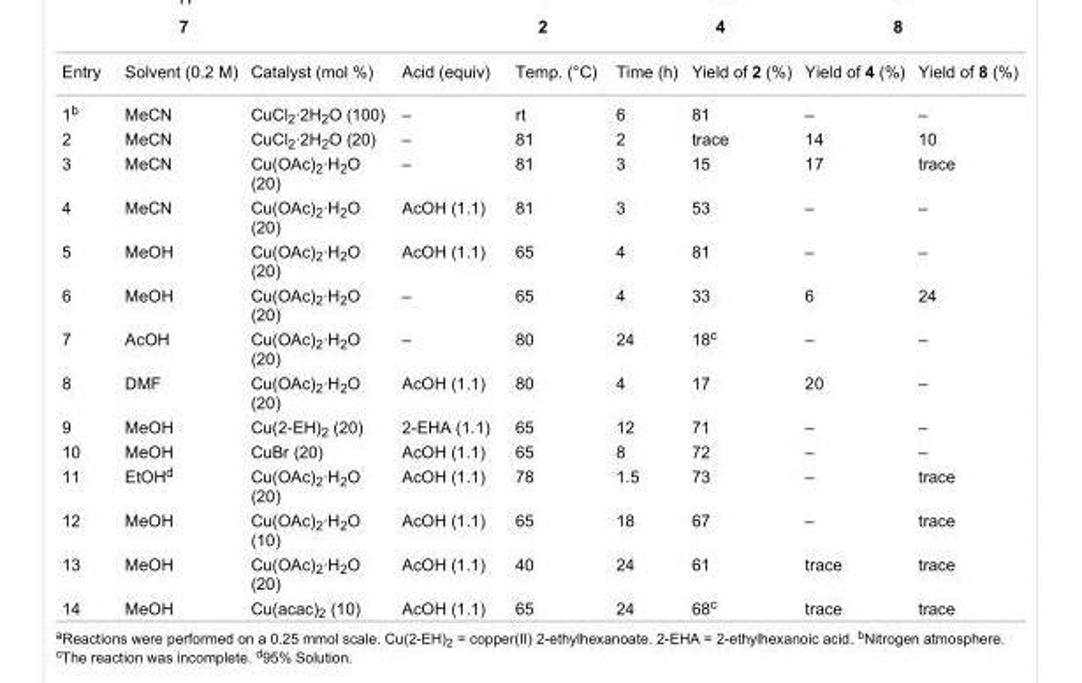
<table><tbody><tr><td>Entry</td><td>Solvent (0.2 M)</td><td>Catalyst (mol %)</td><td>Acid (equiv)</td><td>Temp. (°C)</td><td>Time (h)</td><td>Yield of 2 (%)</td><td>Yield of 4 (%)</td><td>Yield of 8 (%)</td></tr><tr><td>1<sup>b</sup></td><td>MeCN</td><td>CuCl<sub>2</sub>∙2H<sub>2</sub>O (100)</td><td>–</td><td>rt</td><td>6</td><td>81</td><td>–</td><td>–</td></tr><tr><td>2</td><td>MeCN</td><td>CuCl<sub>2</sub>∙2H<sub>2</sub>O (20)</td><td>–</td><td>81</td><td>2</td><td>trace</td><td>14</td><td>10</td></tr><tr><td>3</td><td>MeCN</td><td>Cu(OAc)<sub>2</sub>∙H<sub>2</sub>O (20)</td><td>–</td><td>81</td><td>3</td><td>15</td><td>17</td><td>trace</td></tr><tr><td>4</td><td>MeCN</td><td>Cu(OAc)<sub>2</sub>∙H<sub>2</sub>O (20)</td><td>AcOH (1.1)</td><td>81</td><td>3</td><td>53</td><td>–</td><td>–</td></tr><tr><td>5</td><td>MeOH</td><td>Cu(OAc)<sub>2</sub>∙H<sub>2</sub>O (20)</td><td>AcOH (1.1)</td><td>65</td><td>4</td><td>81</td><td>–</td><td>–</td></tr><tr><td>6</td><td>MeOH</td><td>Cu(OAc)<sub>2</sub>∙H<sub>2</sub>O (20)</td><td>–</td><td>65</td><td>4</td><td>33</td><td>6</td><td>24</td></tr><tr><td>7</td><td>AcOH</td><td>Cu(OAc)<sub>2</sub>∙H<sub>2</sub>O (20)</td><td>–</td><td>80</td><td>24</td><td>18<sup>c</sup></td><td>–</td><td>–</td></tr><tr><td>8</td><td>DMF</td><td>Cu(OAc)<sub>2</sub>∙H<sub>2</sub>O (20)</td><td>AcOH (1.1)</td><td>80</td><td>4</td><td>17</td><td>20</td><td>–</td></tr><tr><td>9</td><td>MeOH</td><td>Cu(2-EH)<sub>2</sub> (20)</td><td>2-EHA (1.1)</td><td>65</td><td>12</td><td>71</td><td>–</td><td>–</td></tr><tr><td>10</td><td>MeOH</td><td>CuBr (20)</td><td>AcOH (1.1)</td><td>65</td><td>8</td><td>72</td><td>–</td><td>–</td></tr><tr><td>11</td><td>EtOH<sup>d</sup></td><td>Cu(OAc)<sub>2</sub>∙H<sub>2</sub>O (20)</td><td>AcOH (1.1)</td><td>78</td><td>1.5</td><td>73</td><td>–</td><td>trace</td></tr><tr><td>12</td><td>MeOH</td><td>Cu(OAc)<sub>2</sub>∙H<sub>2</sub>O (10)</td><td>AcOH (1.1)</td><td>65</td><td>18</td><td>67</td><td>–</td><td>trace</td></tr><tr><td>13</td><td>MeOH</td><td>Cu(OAc)<sub>2</sub>∙H<sub>2</sub>O (20)</td><td>AcOH (1.1)</td><td>40</td><td>24</td><td>61</td><td>trace</td><td>trace</td></tr><tr><td>14</td><td>MeOH</td><td>Cu(acac)<sub>2</sub> (10)</td><td>AcOH (1.1)</td><td>65</td><td>24</td><td>68<sup>c</sup></td><td>trace</td><td>trace</td></tr></tbody></table>